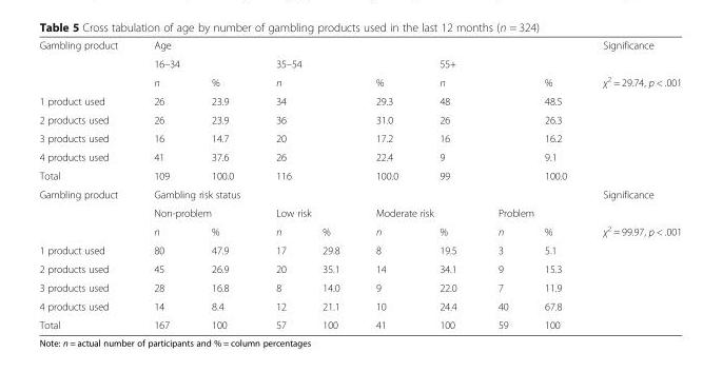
<table><tbody><tr><td rowspan="3">Gambling product</td><td colspan="8">Age</td><td rowspan="2">Significance</td></tr><tr><td colspan="2">16–34</td><td colspan="3">35–54</td><td colspan="3">55+</td></tr><tr><td>n</td><td>%</td><td colspan="2">n</td><td>%</td><td colspan="2">n</td><td>%</td><td rowspan="6">χ<sup>2</sup> = 29.74, p &lt; .001</td></tr><tr><td>1 product used</td><td>26</td><td>23.9</td><td colspan="2">34</td><td>29.3</td><td colspan="2">48</td><td>48.5</td></tr><tr><td>2 products used</td><td>26</td><td>23.9</td><td colspan="2">36</td><td>31.0</td><td colspan="2">26</td><td>26.3</td></tr><tr><td>3 products used</td><td>16</td><td>14.7</td><td colspan="2">20</td><td>17.2</td><td colspan="2">16</td><td>16.2</td></tr><tr><td>4 products used</td><td>41</td><td>37.6</td><td colspan="2">26</td><td>22.4</td><td colspan="2">9</td><td>9.1</td></tr><tr><td>Total</td><td>109</td><td>100.0</td><td colspan="2">116</td><td>100.0</td><td colspan="2">99</td><td>100.0</td></tr><tr><td rowspan="3">Gambling product</td><td colspan="8">Gambling risk status</td><td rowspan="2">Significance</td></tr><tr><td colspan="2">Non-problem</td><td colspan="2">Low risk</td><td colspan="2">Moderate risk</td><td colspan="2">Problem</td></tr><tr><td>n</td><td>%</td><td>n</td><td>%</td><td>n</td><td>%</td><td>n</td><td>%</td><td rowspan="6">χ<sup>2</sup> = 99.97, p &lt; .001</td></tr><tr><td>1 product used</td><td>80</td><td>47.9</td><td>17</td><td>29.8</td><td>8</td><td>19.5</td><td>3</td><td>5.1</td></tr><tr><td>2 products used</td><td>45</td><td>26.9</td><td>20</td><td>35.1</td><td>14</td><td>34.1</td><td>9</td><td>15.3</td></tr><tr><td>3 products used</td><td>28</td><td>16.8</td><td>8</td><td>14.0</td><td>9</td><td>22.0</td><td>7</td><td>11.9</td></tr><tr><td>4 products used</td><td>14</td><td>8.4</td><td>12</td><td>21.1</td><td>10</td><td>24.4</td><td>40</td><td>67.8</td></tr><tr><td>Total</td><td>167</td><td>100</td><td>57</td><td>100</td><td>41</td><td>100</td><td>59</td><td>100</td></tr></tbody></table>